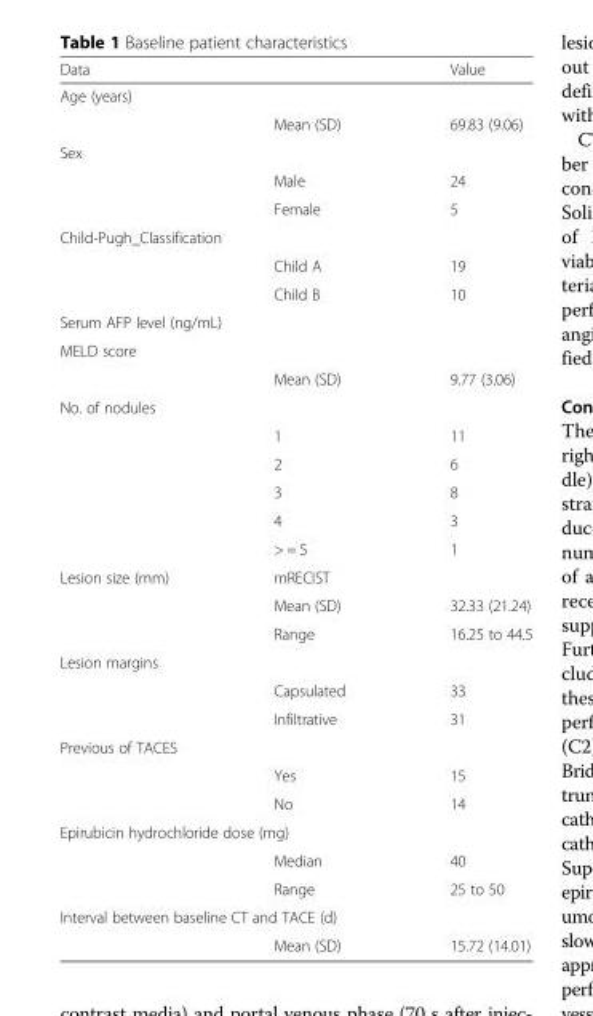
<table><thead><tr><td>Data</td><td></td><td>Value</td></tr></thead><tbody><tr><td colspan="3">Age (years)</td></tr><tr><td></td><td>Mean (SD)</td><td>69.83 (9.06)</td></tr><tr><td colspan="3">Sex</td></tr><tr><td></td><td>Male</td><td>24</td></tr><tr><td></td><td>Female</td><td>5</td></tr><tr><td colspan="3">Child-Pugh_Classification</td></tr><tr><td></td><td>Child A</td><td>19</td></tr><tr><td></td><td>Child B</td><td>10</td></tr><tr><td colspan="3">Serum AFP level (ng/mL)</td></tr><tr><td colspan="3">MELD score</td></tr><tr><td></td><td>Mean (SD)</td><td>9.77 (3.06)</td></tr><tr><td colspan="3">No. of nodules</td></tr><tr><td></td><td>1</td><td>11</td></tr><tr><td></td><td>2</td><td>6</td></tr><tr><td></td><td>3</td><td>8</td></tr><tr><td></td><td>4</td><td>3</td></tr><tr><td></td><td>&gt; = 5</td><td>1</td></tr><tr><td rowspan="3">Lesion size (mm)</td><td>mRECIST</td><td></td></tr><tr><td>Mean (SD)</td><td>32.33 (21.24)</td></tr><tr><td>Range</td><td>16.25 to 44.5</td></tr><tr><td colspan="3">Lesion margins</td></tr><tr><td></td><td>Capsulated</td><td>33</td></tr><tr><td></td><td>Infiltrative</td><td>31</td></tr><tr><td colspan="3">Previous of TACES</td></tr><tr><td></td><td>Yes</td><td>15</td></tr><tr><td></td><td>No</td><td>14</td></tr><tr><td colspan="3">Epirubicin hydrochloride dose (mg)</td></tr><tr><td></td><td>Median</td><td>40</td></tr><tr><td></td><td>Range</td><td>25 to 50</td></tr><tr><td colspan="3">Interval between baseline CT and TACE (d)</td></tr><tr><td></td><td>Mean (SD)</td><td>15.72 (14.01)</td></tr></tbody></table>